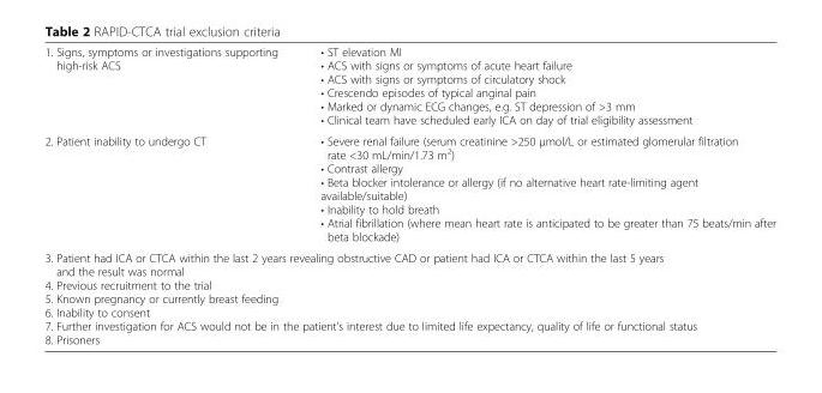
<table><tbody><tr><td>1. Signs, symptoms or investigations supporting high-risk ACS</td><td>• ST elevation MI • ACS with signs or symptoms of acute heart failure • ACS with signs or symptoms of circulatory shock • Crescendo episodes of typical anginal pain • Marked or dynamic ECG changes, e.g. ST depression of &gt;3 mm • Clinical team have scheduled early ICA on day of trial eligibility assessment</td></tr><tr><td>2. Patient inability to undergo CT</td><td>• Severe renal failure (serum creatinine &gt;250 μmol/L or estimated glomerular filtration rate &lt;30 mL/min/1.73 m<sup>2</sup>) • Contrast allergy • Beta blocker intolerance or allergy (if no alternative heart rate-limiting agent available/suitable) • Inability to hold breath • Atrial fibrillation (where mean heart rate is anticipated to be greater than 75 beats/min after beta blockade)</td></tr><tr><td colspan="2">3. Patient had ICA or CTCA within the last 2 years revealing obstructive CAD or patient had ICA or CTCA within the last 5 years and the result was normal 4. Previous recruitment to the trial 5. Known pregnancy or currently breast feeding 6. Inability to consent 7. Further investigation for ACS would not be in the patient’s interest due to limited life expectancy, quality of life or functional status 8. Prisoners</td></tr></tbody></table>